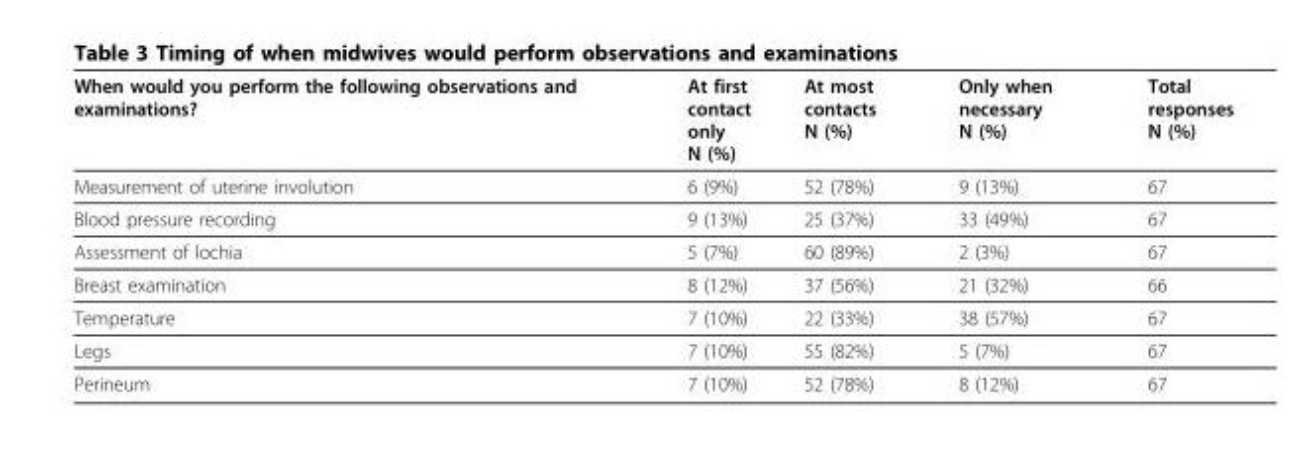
<table><thead><tr><td>When would you perform the following observations and examinations?</td><td>At first contact only N (%)</td><td>At most contacts N (%)</td><td>Only when necessary N (%)</td><td>Total responses N (%)</td></tr></thead><tbody><tr><td>Measurement of uterine involution</td><td>6 (9%)</td><td>52 (78%)</td><td>9 (13%)</td><td>67</td></tr><tr><td>Blood pressure recording</td><td>9 (13%)</td><td>25 (37%)</td><td>33 (49%)</td><td>67</td></tr><tr><td>Assessment of lochia</td><td>5 (7%)</td><td>60 (89%)</td><td>2 (3%)</td><td>67</td></tr><tr><td>Breast examination</td><td>8 (12%)</td><td>37 (56%)</td><td>21 (32%)</td><td>66</td></tr><tr><td>Temperature</td><td>7 (10%)</td><td>22 (33%)</td><td>38 (57%)</td><td>67</td></tr><tr><td>Legs</td><td>7 (10%)</td><td>55 (82%)</td><td>5 (7%)</td><td>67</td></tr><tr><td>Perineum</td><td>7 (10%)</td><td>52 (78%)</td><td>8 (12%)</td><td>67</td></tr></tbody></table>